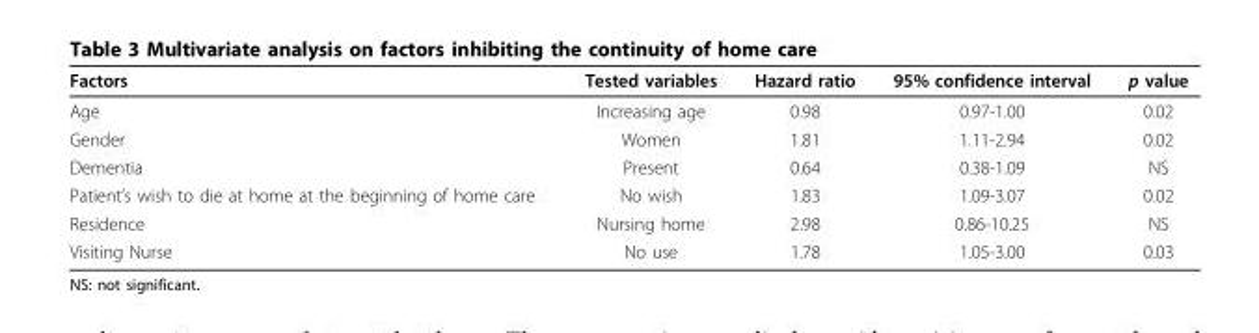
<table><thead><tr><td>Factors</td><td>Tested variables</td><td>Hazard ratio</td><td>95% confidence interval</td><td>p value</td></tr></thead><tbody><tr><td>Age</td><td>Increasing age</td><td>0.98</td><td>0.97-1.00</td><td>0.02</td></tr><tr><td>Gender</td><td>Women</td><td>1.81</td><td>1.11-2.94</td><td>0.02</td></tr><tr><td>Dementia</td><td>Present</td><td>0.64</td><td>0.38-1.09</td><td>NS</td></tr><tr><td>Patient’s wish to die at home at the beginning of home care</td><td>No wish</td><td>1.83</td><td>1.09-3.07</td><td>0.02</td></tr><tr><td>Residence</td><td>Nursing home</td><td>2.98</td><td>0.86-10.25</td><td>NS</td></tr><tr><td>Visiting Nurse</td><td>No use</td><td>1.78</td><td>1.05-3.00</td><td>0.03</td></tr></tbody></table>